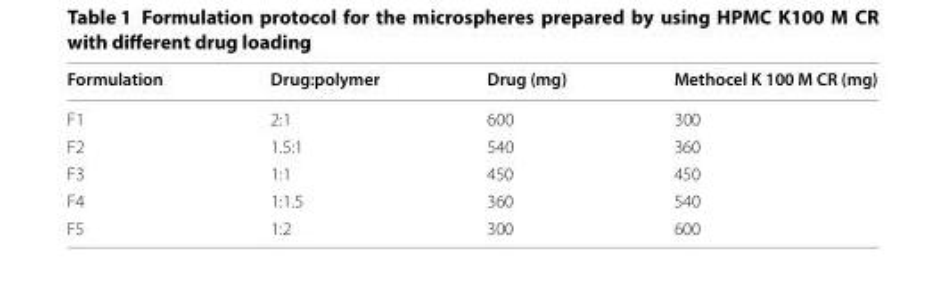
<table><thead><tr><td>Formulation</td><td>Drug:polymer</td><td>Drug (mg)</td><td>Methocel K 100 M CR (mg)</td></tr></thead><tbody><tr><td>F1</td><td>2:1</td><td>600</td><td>300</td></tr><tr><td>F2</td><td>1.5:1</td><td>540</td><td>360</td></tr><tr><td>F3</td><td>1:1</td><td>450</td><td>450</td></tr><tr><td>F4</td><td>1:1.5</td><td>360</td><td>540</td></tr><tr><td>F5</td><td>1:2</td><td>300</td><td>600</td></tr></tbody></table>